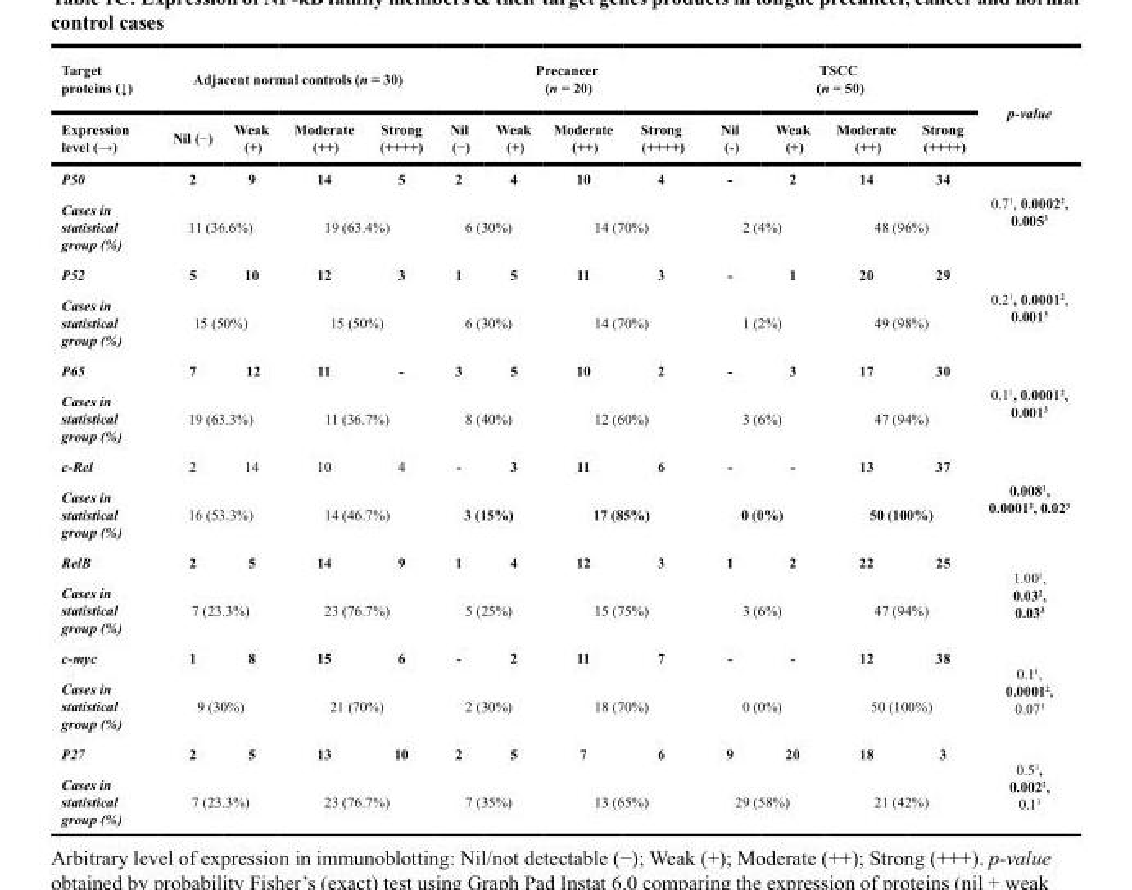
<table><thead><tr><td rowspan="2">Target proteins (↓) Expression level (→)</td><td colspan="4">Adjacent normal controls (n = 30)</td><td colspan="4">Precancer (n = 20)</td><td colspan="4">TSCC (n = 50)</td><td rowspan="2">p-value</td></tr><tr><td>Nil (−)</td><td>Weak (+)</td><td>Moderate (++)</td><td>Strong (++++)</td><td>Nil (−)</td><td>Weak (+)</td><td>Moderate (++)</td><td>Strong (++++)</td><td>Nil (-)</td><td>Weak (+)</td><td>Moderate (++)</td><td>Strong (++++)</td></tr></thead><tbody><tr><td>P50</td><td>2</td><td>9</td><td>14</td><td>5</td><td>2</td><td>4</td><td>10</td><td>4</td><td>-</td><td>2</td><td>14</td><td>34</td><td rowspan="2">0.7<sup>1</sup>, 0.0002<sup>2</sup>, 0.005<sup>3</sup></td></tr><tr><td>Cases in statistical group (%)</td><td colspan="2">11 (36.6%)</td><td colspan="2">19 (63.4%)</td><td colspan="2">6 (30%)</td><td colspan="2">14 (70%)</td><td colspan="2">2 (4%)</td><td colspan="2">48 (96%)</td></tr><tr><td>P52</td><td>5</td><td>10</td><td>12</td><td>3</td><td>1</td><td>5</td><td>11</td><td>3</td><td>-</td><td>1</td><td>20</td><td>29</td><td rowspan="2">0.2<sup>1</sup>, 0.0001<sup>2</sup>, 0.001<sup>3</sup></td></tr><tr><td>Cases in statistical group (%)</td><td colspan="2">15 (50%)</td><td colspan="2">15 (50%)</td><td colspan="2">6 (30%)</td><td colspan="2">14 (70%)</td><td colspan="2">1 (2%)</td><td colspan="2">49 (98%)</td></tr><tr><td>P65</td><td>7</td><td>12</td><td>11</td><td>-</td><td>3</td><td>5</td><td>10</td><td>2</td><td>-</td><td>3</td><td>17</td><td>30</td><td rowspan="2">0.1<sup>1</sup>, 0.0001<sup>2</sup>, 0.001<sup>3</sup></td></tr><tr><td>Cases in statistical group (%)</td><td colspan="2">19 (63.3%)</td><td colspan="2">11 (36.7%)</td><td colspan="2">8 (40%)</td><td colspan="2">12 (60%)</td><td colspan="2">3 (6%)</td><td colspan="2">47 (94%)</td></tr><tr><td>c-Rel</td><td>2</td><td>14</td><td>10</td><td>4</td><td>-</td><td>3</td><td>11</td><td>6</td><td>-</td><td>-</td><td>13</td><td>37</td><td rowspan="2">0.008<sup>1</sup>, 0.0001<sup>2</sup>, 0.02<sup>3</sup></td></tr><tr><td>Cases in statistical group (%)</td><td colspan="2">16 (53.3%)</td><td colspan="2">14 (46.7%)</td><td colspan="2">3 (15%)</td><td colspan="2">17 (85%)</td><td colspan="2">0 (0%)</td><td colspan="2">50 (100%)</td></tr><tr><td>RelB</td><td>2</td><td>5</td><td>14</td><td>9</td><td>1</td><td>4</td><td>12</td><td>3</td><td>1</td><td>2</td><td>22</td><td>25</td><td rowspan="2">1.00<sup>1</sup>, 0.03<sup>2</sup>, 0.03<sup>3</sup></td></tr><tr><td>Cases in statistical group (%)</td><td colspan="2">7 (23.3%)</td><td colspan="2">23 (76.7%)</td><td colspan="2">5 (25%)</td><td colspan="2">15 (75%)</td><td colspan="2">3 (6%)</td><td colspan="2">47 (94%)</td></tr><tr><td>c-myc</td><td>1</td><td>8</td><td>15</td><td>6</td><td>-</td><td>2</td><td>11</td><td>7</td><td>-</td><td>-</td><td>12</td><td>38</td><td rowspan="2">0.1<sup>1</sup>, 0.0001<sup>2</sup>, 0.07<sup>1</sup></td></tr><tr><td>Cases in statistical group (%)</td><td colspan="2">9 (30%)</td><td colspan="2">21 (70%)</td><td colspan="2">2 (30%)</td><td colspan="2">18 (70%)</td><td colspan="2">0 (0%)</td><td colspan="2">50 (100%)</td></tr><tr><td>P27</td><td>2</td><td>5</td><td>13</td><td>10</td><td>2</td><td>5</td><td>7</td><td>6</td><td>9</td><td>20</td><td>18</td><td>3</td><td rowspan="2">0.5<sup>1</sup>, 0.002<sup>2</sup>, 0.1<sup>3</sup></td></tr><tr><td>Cases in statistical group (%)</td><td colspan="2">7 (23.3%)</td><td colspan="2">23 (76.7%)</td><td colspan="2">7 (35%)</td><td colspan="2">13 (65%)</td><td colspan="2">29 (58%)</td><td colspan="2">21 (42%)</td></tr></tbody></table>